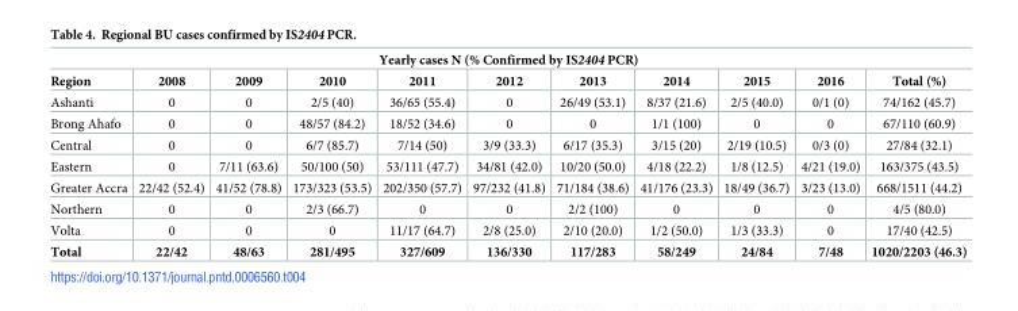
<table><thead><tr><td colspan="11">Yearly cases N (% Confirmed by IS2404 PCR)</td></tr><tr><td>Region</td><td>2008</td><td>2009</td><td>2010</td><td>2011</td><td>2012</td><td>2013</td><td>2014</td><td>2015</td><td>2016</td><td>Total (%)</td></tr></thead><tbody><tr><td>Ashanti</td><td>0</td><td>0</td><td>2/5 (40)</td><td>36/65 (55.4)</td><td>0</td><td>26/49 (53.1)</td><td>8/37 (21.6)</td><td>2/5 (40.0)</td><td>0/1 (0)</td><td>74/162 (45.7)</td></tr><tr><td>Brong Ahafo</td><td>0</td><td>0</td><td>48/57 (84.2)</td><td>18/52 (34.6)</td><td>0</td><td>0</td><td>1/1 (100)</td><td>0</td><td>0</td><td>67/110 (60.9)</td></tr><tr><td>Central</td><td>0</td><td>0</td><td>6/7 (85.7)</td><td>7/14 (50)</td><td>3/9 (33.3)</td><td>6/17 (35.3)</td><td>3/15 (20)</td><td>2/19 (10.5)</td><td>0/3 (0)</td><td>27/84 (32.1)</td></tr><tr><td>Eastern</td><td>0</td><td>7/11 (63.6)</td><td>50/100 (50)</td><td>53/111 (47.7)</td><td>34/81 (42.0)</td><td>10/20 (50.0)</td><td>4/18 (22.2)</td><td>1/8 (12.5)</td><td>4/21 (19.0)</td><td>163/375 (43.5)</td></tr><tr><td>Greater Accra</td><td>22/42 (52.4)</td><td>41/52 (78.8)</td><td>173/323 (53.5)</td><td>202/350 (57.7)</td><td>97/232 (41.8)</td><td>71/184 (38.6)</td><td>41/176 (23.3)</td><td>18/49 (36.7)</td><td>3/23 (13.0)</td><td>668/1511 (44.2)</td></tr><tr><td>Northern</td><td>0</td><td>0</td><td>2/3 (66.7)</td><td>0</td><td>0</td><td>2/2 (100)</td><td>0</td><td>0</td><td>0</td><td>4/5 (80.0)</td></tr><tr><td>Volta</td><td>0</td><td>0</td><td>0</td><td>11/17 (64.7)</td><td>2/8 (25.0)</td><td>2/10 (20.0)</td><td>1/2 (50.0)</td><td>1/3 (33.3)</td><td>0</td><td>17/40 (42.5)</td></tr><tr><td>Total</td><td>22/42</td><td>48/63</td><td>281/495</td><td>327/609</td><td>136/330</td><td>117/283</td><td>58/249</td><td>24/84</td><td>7/48</td><td>1020/2203 (46.3)</td></tr></tbody></table>